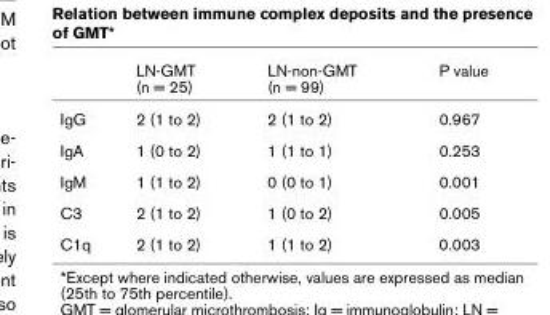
<table><thead><tr><td></td><td>LN-GMT (n = 25)</td><td>LN-non-GMT (n = 99)</td><td>P value</td></tr></thead><tbody><tr><td>IgG</td><td>2 (1 to 2)</td><td>2 (1 to 2)</td><td>0.967</td></tr><tr><td>IgA</td><td>1 (0 to 2)</td><td>1 (1 to 1)</td><td>0.253</td></tr><tr><td>IgM</td><td>1 (1 to 2)</td><td>0 (0 to 1)</td><td>0.001</td></tr><tr><td>C3</td><td>2 (1 to 2)</td><td>1 (0 to 2)</td><td>0.005</td></tr><tr><td>C1q</td><td>2 (1 to 2)</td><td>1 (1 to 2)</td><td>0.003</td></tr></tbody></table>